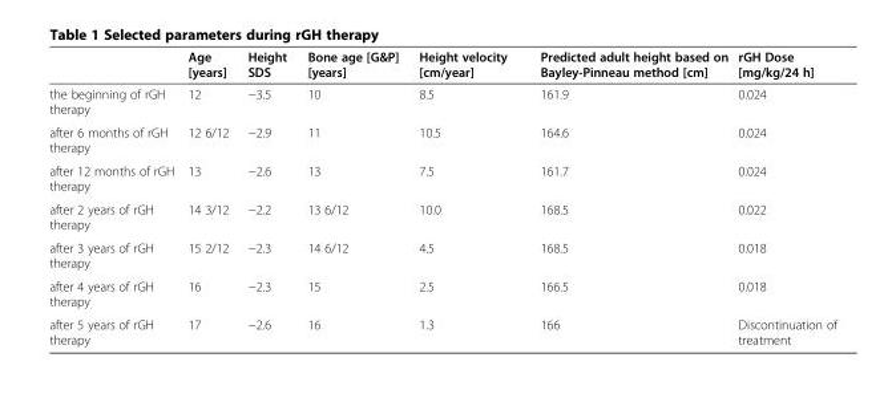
<table><thead><tr><td></td><td>Age [years]</td><td>Height SDS</td><td>Bone age [G&amp;P] [years]</td><td>Height velocity [cm/year]</td><td>Predicted adult height based on Bayley-Pinneau method [cm]</td><td>rGH Dose [mg/kg/24 h]</td></tr></thead><tbody><tr><td>the beginning of rGH therapy</td><td>12</td><td>−3.5</td><td>10</td><td>8.5</td><td>161.9</td><td>0.024</td></tr><tr><td>after 6 months of rGH therapy</td><td>12 6/12</td><td>−2.9</td><td>11</td><td>10.5</td><td>164.6</td><td>0.024</td></tr><tr><td>after 12 months of rGH therapy</td><td>13</td><td>−2.6</td><td>13</td><td>7.5</td><td>161.7</td><td>0.024</td></tr><tr><td>after 2 years of rGH therapy</td><td>14 3/12</td><td>−2.2</td><td>13 6/12</td><td>10.0</td><td>168.5</td><td>0.022</td></tr><tr><td>after 3 years of rGH therapy</td><td>15 2/12</td><td>−2.3</td><td>14 6/12</td><td>4.5</td><td>168.5</td><td>0.018</td></tr><tr><td>after 4 years of rGH therapy</td><td>16</td><td>−2.3</td><td>15</td><td>2.5</td><td>166.5</td><td>0.018</td></tr><tr><td>after 5 years of rGH therapy</td><td>17</td><td>−2.6</td><td>16</td><td>1.3</td><td>166</td><td>Discontinuation of treatment</td></tr></tbody></table>